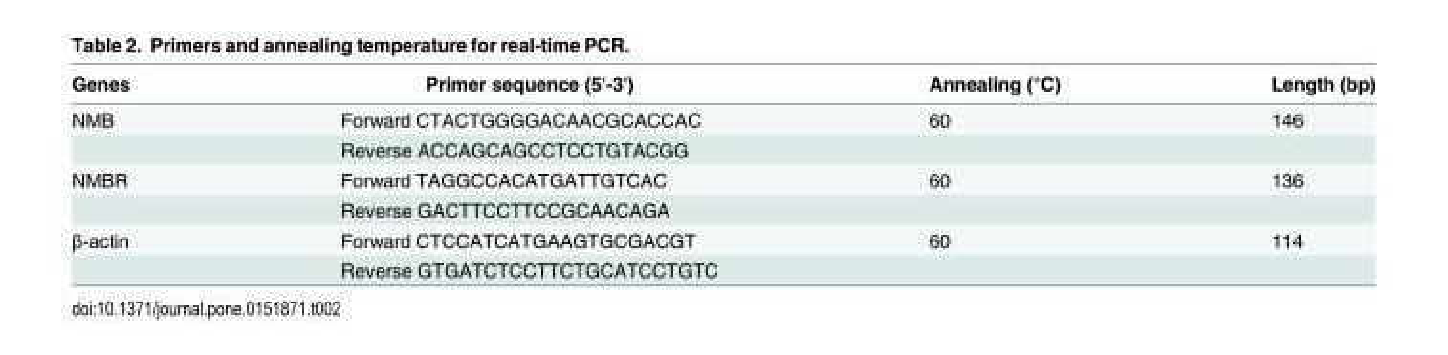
<table><thead><tr><td>Genes</td><td>Primer sequence (5&#x27;-3&#x27;)</td><td>Annealing (°C)</td><td>Length (bp)</td></tr></thead><tbody><tr><td rowspan="2">NMB</td><td>Forward CTACTGGGGACAACGCACCAC</td><td>60</td><td>146</td></tr><tr><td>Reverse ACCAGCAGCCTCCTGTACGG</td><td></td><td></td></tr><tr><td rowspan="2">NMBR</td><td>Forward TAGGCCACATGATTGTCAC</td><td>60</td><td>136</td></tr><tr><td>Reverse GACTTCCTTCCGCAACAGA</td><td></td><td></td></tr><tr><td rowspan="2">β-actin</td><td>Forward CTCCATCATGAAGTGCGACGT</td><td>60</td><td>114</td></tr><tr><td>Reverse GTGATCTCCTTCTGCATCCTGTC</td><td></td><td></td></tr></tbody></table>